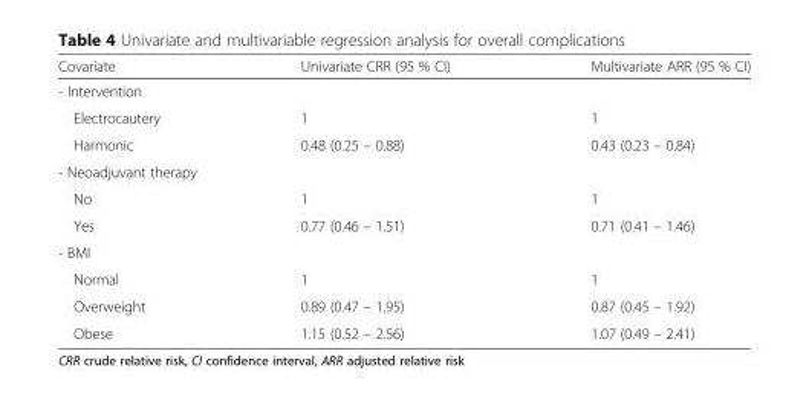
<table><thead><tr><td>Covariate</td><td>Univariate CRR (95 % CI)</td><td>Multivariate ARR (95 % CI)</td></tr></thead><tbody><tr><td colspan="3">- Intervention</td></tr><tr><td>Electrocautery</td><td>1</td><td>1</td></tr><tr><td>Harmonic</td><td>0.48 (0.25 – 0.88)</td><td>0.43 (0.23 – 0.84)</td></tr><tr><td colspan="3">- Neoadjuvant therapy</td></tr><tr><td>No</td><td>1</td><td>1</td></tr><tr><td>Yes</td><td>0.77 (0.46 – 1.51)</td><td>0.71 (0.41 – 1.46)</td></tr><tr><td colspan="3">- BMI</td></tr><tr><td>Normal</td><td>1</td><td>1</td></tr><tr><td>Overweight</td><td>0.89 (0.47 – 1.95)</td><td>0.87 (0.45 – 1.92)</td></tr><tr><td>Obese</td><td>1.15 (0.52 – 2.56)</td><td>1.07 (0.49 – 2.41)</td></tr></tbody></table>